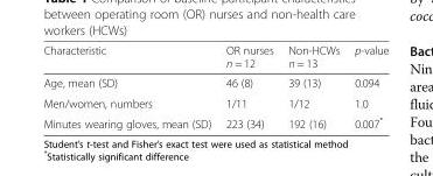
<table><thead><tr><td>Characteristic</td><td>OR nurses n = 12</td><td>Non-HCWs n = 13</td><td>p-value</td></tr></thead><tbody><tr><td>Age, mean (SD)</td><td>46 (8)</td><td>39 (13)</td><td>0.094</td></tr><tr><td>Men/women, numbers</td><td>1/11</td><td>1/12</td><td>1.0</td></tr><tr><td>Minutes wearing gloves, mean (SD)</td><td>223 (34)</td><td>192 (16)</td><td>0.007*</td></tr></tbody></table>